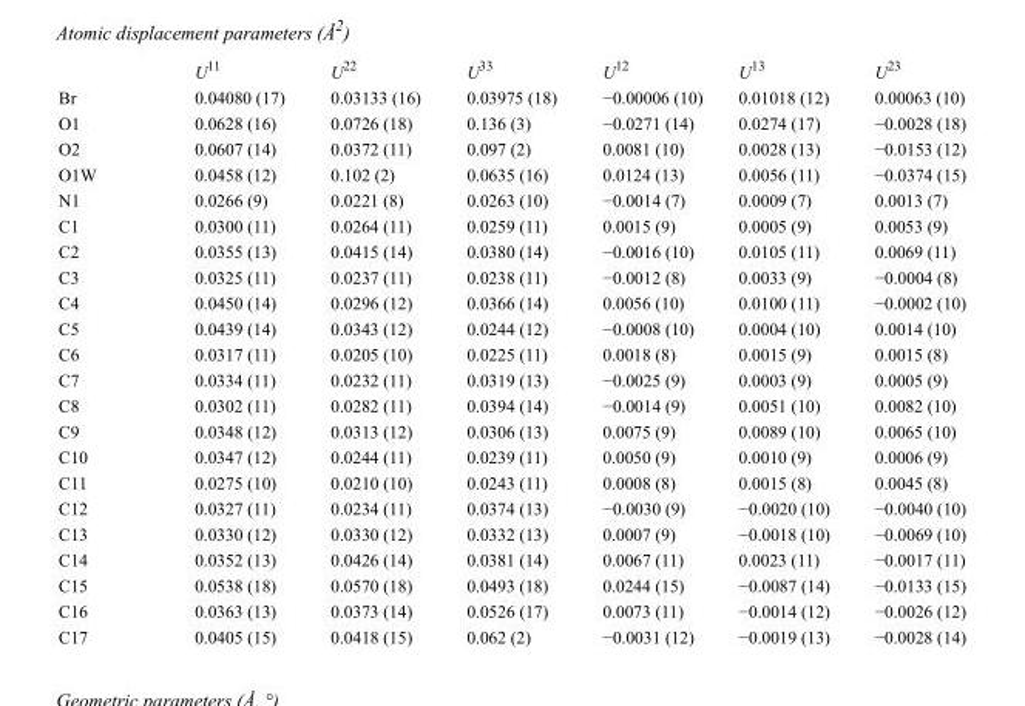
<table><thead><tr><td></td><td>U<sup>11</sup></td><td>U<sup>22</sup></td><td>U<sup>33</sup></td><td>U<sup>12</sup></td><td>U<sup>13</sup></td><td>U<sup>23</sup></td></tr></thead><tbody><tr><td>Br</td><td>0.04080 (17)</td><td>0.03133 (16)</td><td>0.03975 (18)</td><td>−0.00006 (10)</td><td>0.01018 (12)</td><td>0.00063 (10)</td></tr><tr><td>O1</td><td>0.0628 (16)</td><td>0.0726 (18)</td><td>0.136 (3)</td><td>−0.0271 (14)</td><td>0.0274 (17)</td><td>−0.0028 (18)</td></tr><tr><td>O2</td><td>0.0607 (14)</td><td>0.0372 (11)</td><td>0.097 (2)</td><td>0.0081 (10)</td><td>0.0028 (13)</td><td>−0.0153 (12)</td></tr><tr><td>O1W</td><td>0.0458 (12)</td><td>0.102 (2)</td><td>0.0635 (16)</td><td>0.0124 (13)</td><td>0.0056 (11)</td><td>−0.0374 (15)</td></tr><tr><td>N1</td><td>0.0266 (9)</td><td>0.0221 (8)</td><td>0.0263 (10)</td><td>−0.0014 (7)</td><td>0.0009 (7)</td><td>0.0013 (7)</td></tr><tr><td>C1</td><td>0.0300 (11)</td><td>0.0264 (11)</td><td>0.0259 (11)</td><td>0.0015 (9)</td><td>0.0005 (9)</td><td>0.0053 (9)</td></tr><tr><td>C2</td><td>0.0355 (13)</td><td>0.0415 (14)</td><td>0.0380 (14)</td><td>−0.0016 (10)</td><td>0.0105 (11)</td><td>0.0069 (11)</td></tr><tr><td>C3</td><td>0.0325 (11)</td><td>0.0237 (11)</td><td>0.0238 (11)</td><td>−0.0012 (8)</td><td>0.0033 (9)</td><td>−0.0004 (8)</td></tr><tr><td>C4</td><td>0.0450 (14)</td><td>0.0296 (12)</td><td>0.0366 (14)</td><td>0.0056 (10)</td><td>0.0100 (11)</td><td>−0.0002 (10)</td></tr><tr><td>C5</td><td>0.0439 (14)</td><td>0.0343 (12)</td><td>0.0244 (12)</td><td>−0.0008 (10)</td><td>0.0004 (10)</td><td>0.0014 (10)</td></tr><tr><td>C6</td><td>0.0317 (11)</td><td>0.0205 (10)</td><td>0.0225 (11)</td><td>0.0018 (8)</td><td>0.0015 (9)</td><td>0.0015 (8)</td></tr><tr><td>C7</td><td>0.0334 (11)</td><td>0.0232 (11)</td><td>0.0319 (13)</td><td>−0.0025 (9)</td><td>0.0003 (9)</td><td>0.0005 (9)</td></tr><tr><td>C8</td><td>0.0302 (11)</td><td>0.0282 (11)</td><td>0.0394 (14)</td><td>−0.0014 (9)</td><td>0.0051 (10)</td><td>0.0082 (10)</td></tr><tr><td>C9</td><td>0.0348 (12)</td><td>0.0313 (12)</td><td>0.0306 (13)</td><td>0.0075 (9)</td><td>0.0089 (10)</td><td>0.0065 (10)</td></tr><tr><td>C10</td><td>0.0347 (12)</td><td>0.0244 (11)</td><td>0.0239 (11)</td><td>0.0050 (9)</td><td>0.0010 (9)</td><td>0.0006 (9)</td></tr><tr><td>C11</td><td>0.0275 (10)</td><td>0.0210 (10)</td><td>0.0243 (11)</td><td>0.0008 (8)</td><td>0.0015 (8)</td><td>0.0045 (8)</td></tr><tr><td>C12</td><td>0.0327 (11)</td><td>0.0234 (11)</td><td>0.0374 (13)</td><td>−0.0030 (9)</td><td>−0.0020 (10)</td><td>−0.0040 (10)</td></tr><tr><td>C13</td><td>0.0330 (12)</td><td>0.0330 (12)</td><td>0.0332 (13)</td><td>0.0007 (9)</td><td>−0.0018 (10)</td><td>−0.0069 (10)</td></tr><tr><td>C14</td><td>0.0352 (13)</td><td>0.0426 (14)</td><td>0.0381 (14)</td><td>0.0067 (11)</td><td>0.0023 (11)</td><td>−0.0017 (11)</td></tr><tr><td>C15</td><td>0.0538 (18)</td><td>0.0570 (18)</td><td>0.0493 (18)</td><td>0.0244 (15)</td><td>−0.0087 (14)</td><td>−0.0133 (15)</td></tr><tr><td>C16</td><td>0.0363 (13)</td><td>0.0373 (14)</td><td>0.0526 (17)</td><td>0.0073 (11)</td><td>−0.0014 (12)</td><td>−0.0026 (12)</td></tr><tr><td>C17</td><td>0.0405 (15)</td><td>0.0418 (15)</td><td>0.062 (2)</td><td>−0.0031 (12)</td><td>−0.0019 (13)</td><td>−0.0028 (14)</td></tr></tbody></table>